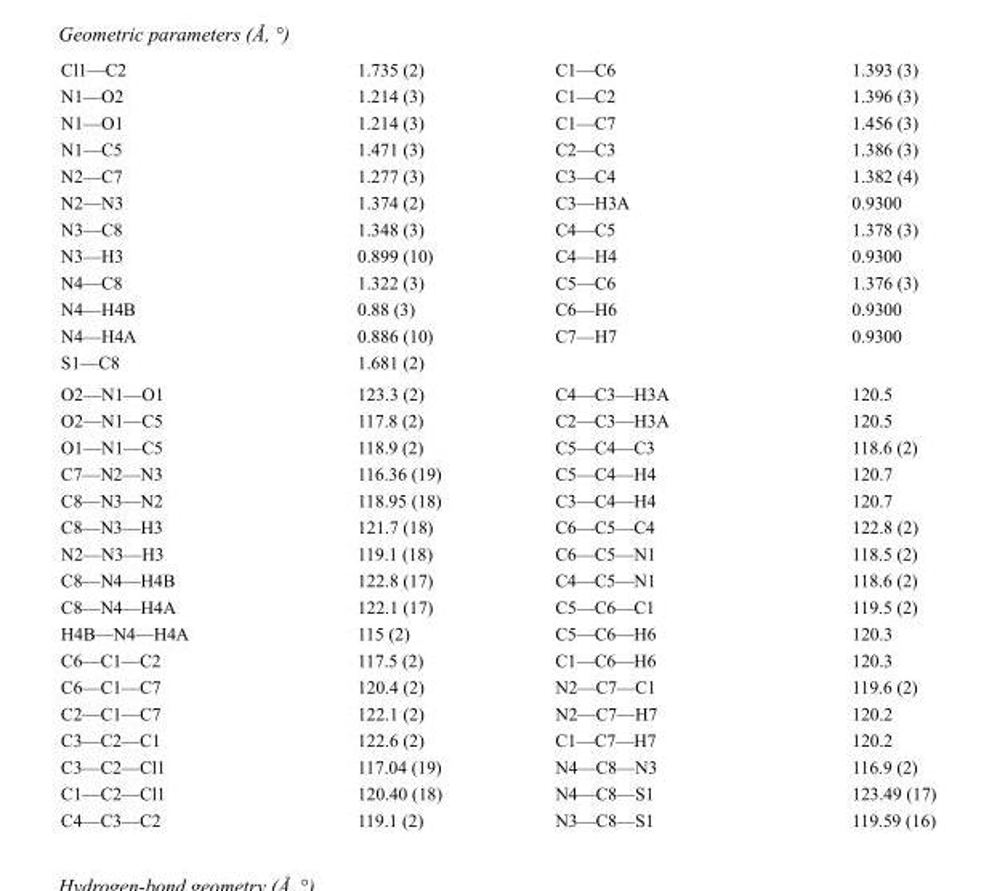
<table><tbody><tr><td>Cl1—C2</td><td>1.735 (2)</td><td>C1—C6</td><td>1.393 (3)</td></tr><tr><td>N1—O2</td><td>1.214 (3)</td><td>C1—C2</td><td>1.396 (3)</td></tr><tr><td>N1—O1</td><td>1.214 (3)</td><td>C1—C7</td><td>1.456 (3)</td></tr><tr><td>N1—C5</td><td>1.471 (3)</td><td>C2—C3</td><td>1.386 (3)</td></tr><tr><td>N2—C7</td><td>1.277 (3)</td><td>C3—C4</td><td>1.382 (4)</td></tr><tr><td>N2—N3</td><td>1.374 (2)</td><td>C3—H3A</td><td>0.9300</td></tr><tr><td>N3—C8</td><td>1.348 (3)</td><td>C4—C5</td><td>1.378 (3)</td></tr><tr><td>N3—H3</td><td>0.899 (10)</td><td>C4—H4</td><td>0.9300</td></tr><tr><td>N4—C8</td><td>1.322 (3)</td><td>C5—C6</td><td>1.376 (3)</td></tr><tr><td>N4—H4B</td><td>0.88 (3)</td><td>C6—H6</td><td>0.9300</td></tr><tr><td>N4—H4A</td><td>0.886 (10)</td><td>C7—H7</td><td>0.9300</td></tr><tr><td>S1—C8</td><td>1.681 (2)</td><td></td><td></td></tr><tr><td>O2—N1—O1</td><td>123.3 (2)</td><td>C4—C3—H3A</td><td>120.5</td></tr><tr><td>O2—N1—C5</td><td>117.8 (2)</td><td>C2—C3—H3A</td><td>120.5</td></tr><tr><td>O1—N1—C5</td><td>118.9 (2)</td><td>C5—C4—C3</td><td>118.6 (2)</td></tr><tr><td>C7—N2—N3</td><td>116.36 (19)</td><td>C5—C4—H4</td><td>120.7</td></tr><tr><td>C8—N3—N2</td><td>118.95 (18)</td><td>C3—C4—H4</td><td>120.7</td></tr><tr><td>C8—N3—H3</td><td>121.7 (18)</td><td>C6—C5—C4</td><td>122.8 (2)</td></tr><tr><td>N2—N3—H3</td><td>119.1 (18)</td><td>C6—C5—N1</td><td>118.5 (2)</td></tr><tr><td>C8—N4—H4B</td><td>122.8 (17)</td><td>C4—C5—N1</td><td>118.6 (2)</td></tr><tr><td>C8—N4—H4A</td><td>122.1 (17)</td><td>C5—C6—C1</td><td>119.5 (2)</td></tr><tr><td>H4B—N4—H4A</td><td>115 (2)</td><td>C5—C6—H6</td><td>120.3</td></tr><tr><td>C6—C1—C2</td><td>117.5 (2)</td><td>C1—C6—H6</td><td>120.3</td></tr><tr><td>C6—C1—C7</td><td>120.4 (2)</td><td>N2—C7—C1</td><td>119.6 (2)</td></tr><tr><td>C2—C1—C7</td><td>122.1 (2)</td><td>N2—C7—H7</td><td>120.2</td></tr><tr><td>C3—C2—C1</td><td>122.6 (2)</td><td>C1—C7—H7</td><td>120.2</td></tr><tr><td>C3—C2—Cl1</td><td>117.04 (19)</td><td>N4—C8—N3</td><td>116.9 (2)</td></tr><tr><td>C1—C2—Cl1</td><td>120.40 (18)</td><td>N4—C8—S1</td><td>123.49 (17)</td></tr><tr><td>C4—C3—C2</td><td>119.1 (2)</td><td>N3—C8—S1</td><td>119.59 (16)</td></tr></tbody></table>